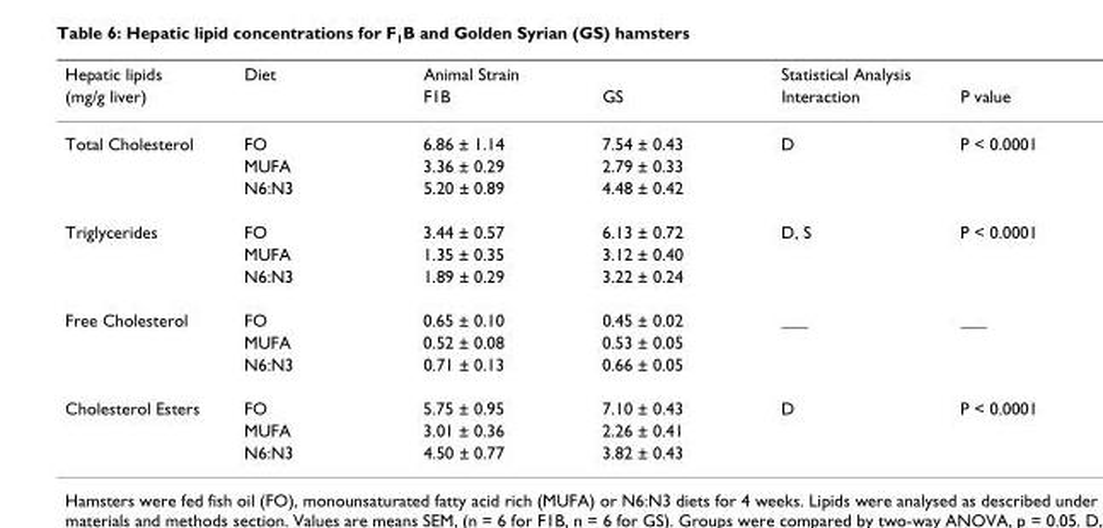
<table><thead><tr><td rowspan="2">Hepatic lipids (mg/g liver)</td><td rowspan="2">Diet</td><td colspan="2">Animal Strain</td><td colspan="2">Statistical Analysis</td></tr><tr><td>F1B</td><td>GS</td><td>Interaction</td><td>P value</td></tr></thead><tbody><tr><td rowspan="3">Total Cholesterol</td><td>FO</td><td>6.86 ± 1.14</td><td>7.54 ± 0.43</td><td>D</td><td>P &lt; 0.0001</td></tr><tr><td>MUFA</td><td>3.36 ± 0.29</td><td>2.79 ± 0.33</td><td></td><td></td></tr><tr><td>N6:N3</td><td>5.20 ± 0.89</td><td>4.48 ± 0.42</td><td></td><td></td></tr><tr><td rowspan="3">Triglycerides</td><td>FO</td><td>3.44 ± 0.57</td><td>6.13 ± 0.72</td><td>D, S</td><td>P &lt; 0.0001</td></tr><tr><td>MUFA</td><td>1.35 ± 0.35</td><td>3.12 ± 0.40</td><td></td><td></td></tr><tr><td>N6:N3</td><td>1.89 ± 0.29</td><td>3.22 ± 0.24</td><td></td><td></td></tr><tr><td rowspan="3">Free Cholesterol</td><td>FO</td><td>0.65 ± 0.10</td><td>0.45 ± 0.02</td><td>___</td><td>___</td></tr><tr><td>MUFA</td><td>0.52 ± 0.08</td><td>0.53 ± 0.05</td><td></td><td></td></tr><tr><td>N6:N3</td><td>0.71 ± 0.13</td><td>0.66 ± 0.05</td><td></td><td></td></tr><tr><td rowspan="3">Cholesterol Esters</td><td>FO</td><td>5.75 ± 0.95</td><td>7.10 ± 0.43</td><td>D</td><td>P &lt; 0.0001</td></tr><tr><td>MUFA</td><td>3.01 ± 0.36</td><td>2.26 ± 0.41</td><td></td><td></td></tr><tr><td>N6:N3</td><td>4.50 ± 0.77</td><td>3.82 ± 0.43</td><td></td><td></td></tr></tbody></table>